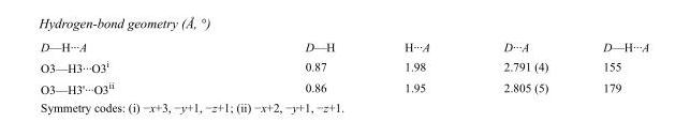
<table><tbody><tr><td>D—H···A</td><td>D—H</td><td>H···A</td><td>D···A</td><td>D—H···A</td></tr><tr><td>O3—H3···O3<sup>i</sup></td><td>0.87</td><td>1.98</td><td>2.791 (4)</td><td>155</td></tr><tr><td>O3—H3&#x27;···O3<sup>ii</sup></td><td>0.86</td><td>1.95</td><td>2.805 (5)</td><td>179</td></tr></tbody></table>